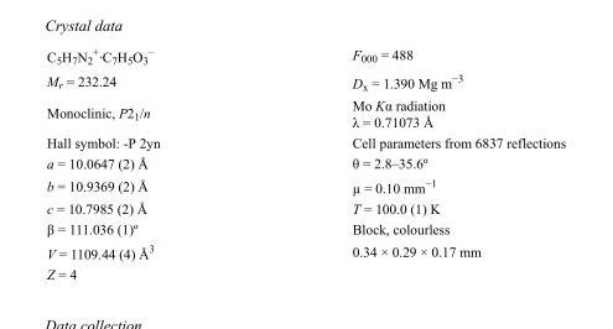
<table><tbody><tr><td>C<sub>5</sub>H<sub>7</sub>N<sub>2</sub> <sup>+</sup>·C<sub>7</sub>H<sub>5</sub>O<sub>3</sub> <sup>–</sup></td><td>F000 = 488</td></tr><tr><td>M<sub>r</sub> = 232.24</td><td>D<sub>x</sub> = 1.390 Mg m<sup>−3</sup></td></tr><tr><td>Monoclinic, P2<sub>1</sub>/n</td><td>Mo Kα radiation λ = 0.71073 Å</td></tr><tr><td>Hall symbol: -P 2yn</td><td>Cell parameters from 6837 reflections</td></tr><tr><td>a = 10.0647 (2) Å</td><td>θ = 2.8–35.6º</td></tr><tr><td>b = 10.9369 (2) Å</td><td>µ = 0.10 mm<sup>−1</sup></td></tr><tr><td>c = 10.7985 (2) Å</td><td>T = 100.0 (1) K</td></tr><tr><td>β = 111.036 (1)º</td><td>Block, colourless</td></tr><tr><td>V = 1109.44 (4) Å<sup>3</sup></td><td>0.34 × 0.29 × 0.17 mm</td></tr><tr><td>Z = 4</td><td></td></tr></tbody></table>